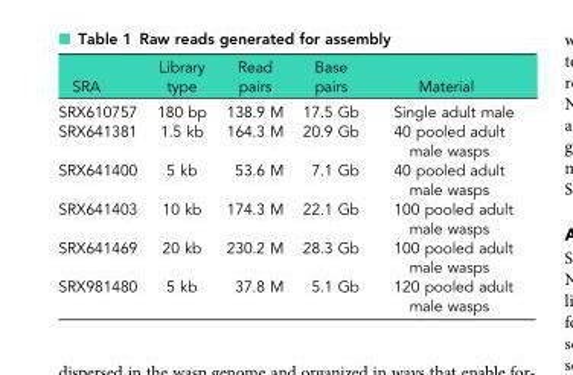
<table><thead><tr><td>SRA</td><td>Library type</td><td>Read pairs</td><td>Base pairs</td><td>Material</td></tr></thead><tbody><tr><td>SRX610757</td><td>180 bp</td><td>138.9 M</td><td>17.5 Gb</td><td>Single adult male</td></tr><tr><td>SRX641381</td><td>1.5 kb</td><td>164.3 M</td><td>20.9 Gb</td><td>40 pooled adult male wasps</td></tr><tr><td>SRX641400</td><td>5 kb</td><td>53.6 M</td><td>7.1 Gb</td><td>40 pooled adult male wasps</td></tr><tr><td>SRX641403</td><td>10 kb</td><td>174.3 M</td><td>22.1 Gb</td><td>100 pooled adult male wasps</td></tr><tr><td>SRX641469</td><td>20 kb</td><td>230.2 M</td><td>28.3 Gb</td><td>100 pooled adult male wasps</td></tr><tr><td>SRX981480</td><td>5 kb</td><td>37.8 M</td><td>5.1 Gb</td><td>120 pooled adult male wasps</td></tr></tbody></table>